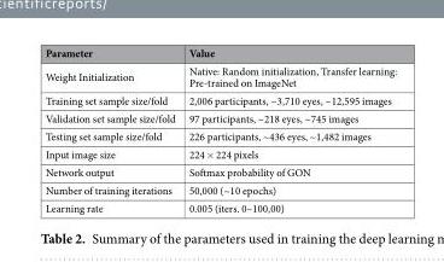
<table><thead><tr><td>Parameter</td><td>Value</td></tr></thead><tbody><tr><td>Weight Initialization</td><td>Native: Random initialization, Transfer learning: Pre-trained on ImageNet</td></tr><tr><td>Training set sample size/fold</td><td>2,006 participants, ~3,710 eyes, ~12,595 images</td></tr><tr><td>Validation set sample size/fold</td><td>97 participants, ~218 eyes, ~745 images</td></tr><tr><td>Testing set sample size/fold</td><td>226 participants, ~436 eyes, ~1,482 images</td></tr><tr><td>Input image size</td><td>224 × 224 pixels</td></tr><tr><td>Network output</td><td>Softmax probability of GON</td></tr><tr><td>Number of training iterations</td><td>50,000 (~10 epochs)</td></tr><tr><td>Learning rate</td><td>0.005 (iters. 0–100,00)</td></tr></tbody></table>